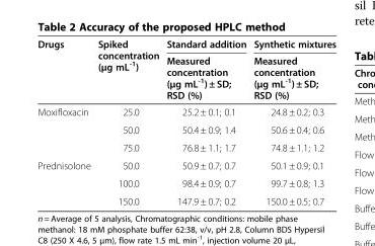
<table><thead><tr><td rowspan="2">Drugs</td><td rowspan="2">Spiked concentration (μg mL<sup>-1</sup>)</td><td rowspan="2">Standard addition Measured concentration (μg mL<sup>-1</sup>) ± SD; RSD (%)</td><td rowspan="2">Synthetic mixtures Measured concentration (μg mL<sup>-1</sup>) ± SD; RSD (%)</td></tr><tr></tr></thead><tbody><tr><td rowspan="3">Moxifloxacin</td><td>25.0</td><td>25.2 ± 0.1; 0.1</td><td>24.8 ± 0.2; 0.3</td></tr><tr><td>50.0</td><td>50.4 ± 0.9; 1.4</td><td>50.6 ± 0.4; 0.6</td></tr><tr><td>75.0</td><td>76.8 ± 1.1; 1.7</td><td>74.8 ± 1.1; 1.2</td></tr><tr><td rowspan="3">Prednisolone</td><td>50.0</td><td>50.9 ± 0.7; 0.7</td><td>50.1 ± 0.9; 0.1</td></tr><tr><td>100.0</td><td>98.4 ± 0.9; 0.7</td><td>99.7 ± 0.8; 1.3</td></tr><tr><td>150.0</td><td>147.9 ± 0.7; 0.2</td><td>150.0 ± 0.5; 0.7</td></tr></tbody></table>